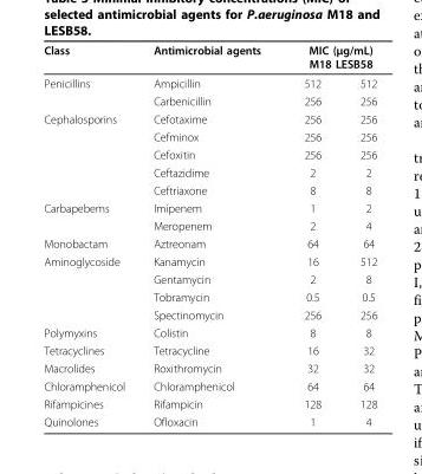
<table><thead><tr><td rowspan="2">Class Penicillins</td><td rowspan="2">Antimicrobial agents Ampicillin</td><td colspan="2">MIC (μg/mL) M18 LESB58</td></tr><tr><td>512</td><td>512</td></tr></thead><tbody><tr><td></td><td>Carbenicillin</td><td>256</td><td>256</td></tr><tr><td rowspan="5">Cephalosporins</td><td>Cefotaxime</td><td>256</td><td>256</td></tr><tr><td>Cefminox</td><td>256</td><td>256</td></tr><tr><td>Cefoxitin</td><td>256</td><td>256</td></tr><tr><td>Ceftazidime</td><td>2</td><td>2</td></tr><tr><td>Ceftriaxone</td><td>8</td><td>8</td></tr><tr><td rowspan="2">Carbapebems</td><td>Imipenem</td><td>1</td><td>2</td></tr><tr><td>Meropenem</td><td>2</td><td>4</td></tr><tr><td>Monobactam</td><td>Aztreonam</td><td>64</td><td>64</td></tr><tr><td rowspan="4">Aminoglycoside</td><td>Kanamycin</td><td>16</td><td>512</td></tr><tr><td>Gentamycin</td><td>2</td><td>8</td></tr><tr><td>Tobramycin</td><td>0.5</td><td>0.5</td></tr><tr><td>Spectinomycin</td><td>256</td><td>256</td></tr><tr><td>Polymyxins</td><td>Colistin</td><td>8</td><td>8</td></tr><tr><td>Tetracyclines</td><td>Tetracycline</td><td>16</td><td>32</td></tr><tr><td>Macrolides</td><td>Roxithromycin</td><td>32</td><td>32</td></tr><tr><td>Chloramphenicol</td><td>Chloramphenicol</td><td>64</td><td>64</td></tr><tr><td>Rifampicines</td><td>Rifampicin</td><td>128</td><td>128</td></tr><tr><td>Quinolones</td><td>Ofloxacin</td><td>1</td><td>4</td></tr></tbody></table>